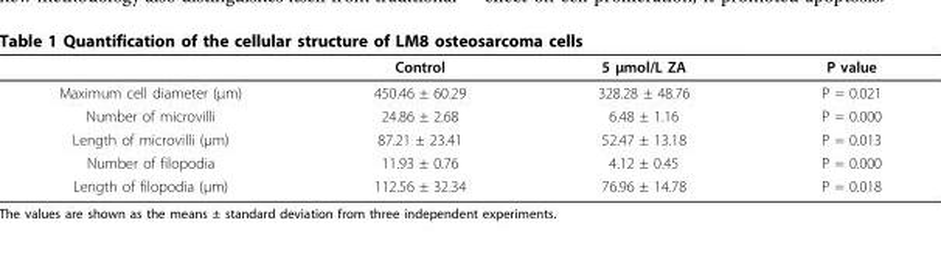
<table><thead><tr><td></td><td>Control</td><td>5 μmol/L ZA</td><td>P value</td></tr></thead><tbody><tr><td>Maximum cell diameter (μm)</td><td>450.46 ± 60.29</td><td>328.28 ± 48.76</td><td>P = 0.021</td></tr><tr><td>Number of microvilli</td><td>24.86 ± 2.68</td><td>6.48 ± 1.16</td><td>P = 0.000</td></tr><tr><td>Length of microvilli (μm)</td><td>87.21 ± 23.41</td><td>52.47 ± 13.18</td><td>P = 0.013</td></tr><tr><td>Number of filopodia</td><td>11.93 ± 0.76</td><td>4.12 ± 0.45</td><td>P = 0.000</td></tr><tr><td>Length of filopodia (μm)</td><td>112.56 ± 32.34</td><td>76.96 ± 14.78</td><td>P = 0.018</td></tr></tbody></table>